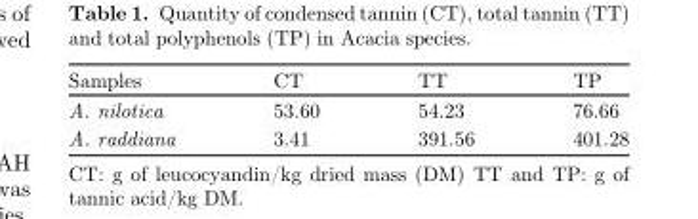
<table><thead><tr><td>Samples</td><td>CT</td><td>TT</td><td>TP</td></tr></thead><tbody><tr><td>A. nilotica</td><td>53.60</td><td>54.23</td><td>76.66</td></tr><tr><td>A. raddiana</td><td>3.41</td><td>391.56</td><td>401.28</td></tr></tbody></table>